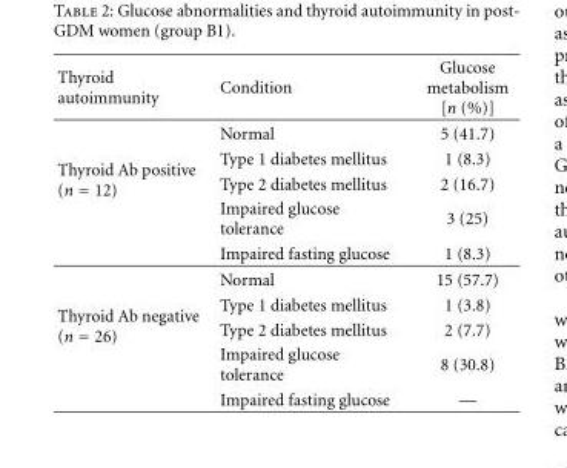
<table><thead><tr><td>Thyroid autoimmunity</td><td>Condition</td><td>Glucose metabolism [n (%)]</td></tr></thead><tbody><tr><td rowspan="5">Thyroid Ab positive (n = 12)</td><td>Normal</td><td>5 (41.7)</td></tr><tr><td>Type 1 diabetes mellitus</td><td>1 (8.3)</td></tr><tr><td>Type 2 diabetes mellitus</td><td>2 (16.7)</td></tr><tr><td>Impaired glucose tolerance</td><td>3 (25)</td></tr><tr><td>Impaired fasting glucose</td><td>1 (8.3)</td></tr><tr><td rowspan="5">Thyroid Ab negative (n = 26)</td><td>Normal</td><td>15 (57.7)</td></tr><tr><td>Type 1 diabetes mellitus</td><td>1 (3.8)</td></tr><tr><td>Type 2 diabetes mellitus</td><td>2 (7.7)</td></tr><tr><td>Impaired glucose tolerance</td><td>8 (30.8)</td></tr><tr><td>Impaired fasting glucose</td><td>—</td></tr></tbody></table>